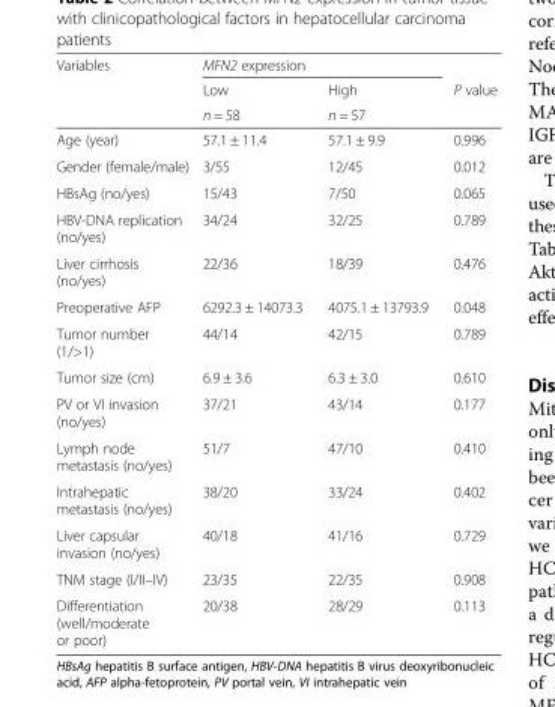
<table><thead><tr><td rowspan="3">Variables</td><td colspan="2">MFN2 expression</td><td rowspan="3">P value</td></tr><tr><td rowspan="2">Low n = 58</td><td rowspan="2">High n = 57</td></tr><tr></tr></thead><tbody><tr><td>Age (year)</td><td>57.1 ± 11.4</td><td>57.1 ± 9.9</td><td>0.996</td></tr><tr><td>Gender (female/male)</td><td>3/55</td><td>12/45</td><td>0.012</td></tr><tr><td>HBsAg (no/yes)</td><td>15/43</td><td>7/50</td><td>0.065</td></tr><tr><td>HBV-DNA replication (no/yes)</td><td>34/24</td><td>32/25</td><td>0.789</td></tr><tr><td>Liver cirrhosis (no/yes)</td><td>22/36</td><td>18/39</td><td>0.476</td></tr><tr><td>Preoperative AFP</td><td>6292.3 ± 14073.3</td><td>4075.1 ± 13793.9</td><td>0.048</td></tr><tr><td>Tumor number (1/&gt;1)</td><td>44/14</td><td>42/15</td><td>0.789</td></tr><tr><td>Tumor size (cm)</td><td>6.9 ± 3.6</td><td>6.3 ± 3.0</td><td>0.610</td></tr><tr><td>PV or VI invasion (no/yes)</td><td>37/21</td><td>43/14</td><td>0.177</td></tr><tr><td>Lymph node metastasis (no/yes)</td><td>51/7</td><td>47/10</td><td>0.410</td></tr><tr><td>Intrahepatic metastasis (no/yes)</td><td>38/20</td><td>33/24</td><td>0.402</td></tr><tr><td>Liver capsular invasion (no/yes)</td><td>40/18</td><td>41/16</td><td>0.729</td></tr><tr><td>TNM stage (I/II–IV)</td><td>23/35</td><td>22/35</td><td>0.908</td></tr><tr><td>Differentiation (well/moderate or poor)</td><td>20/38</td><td>28/29</td><td>0.113</td></tr></tbody></table>